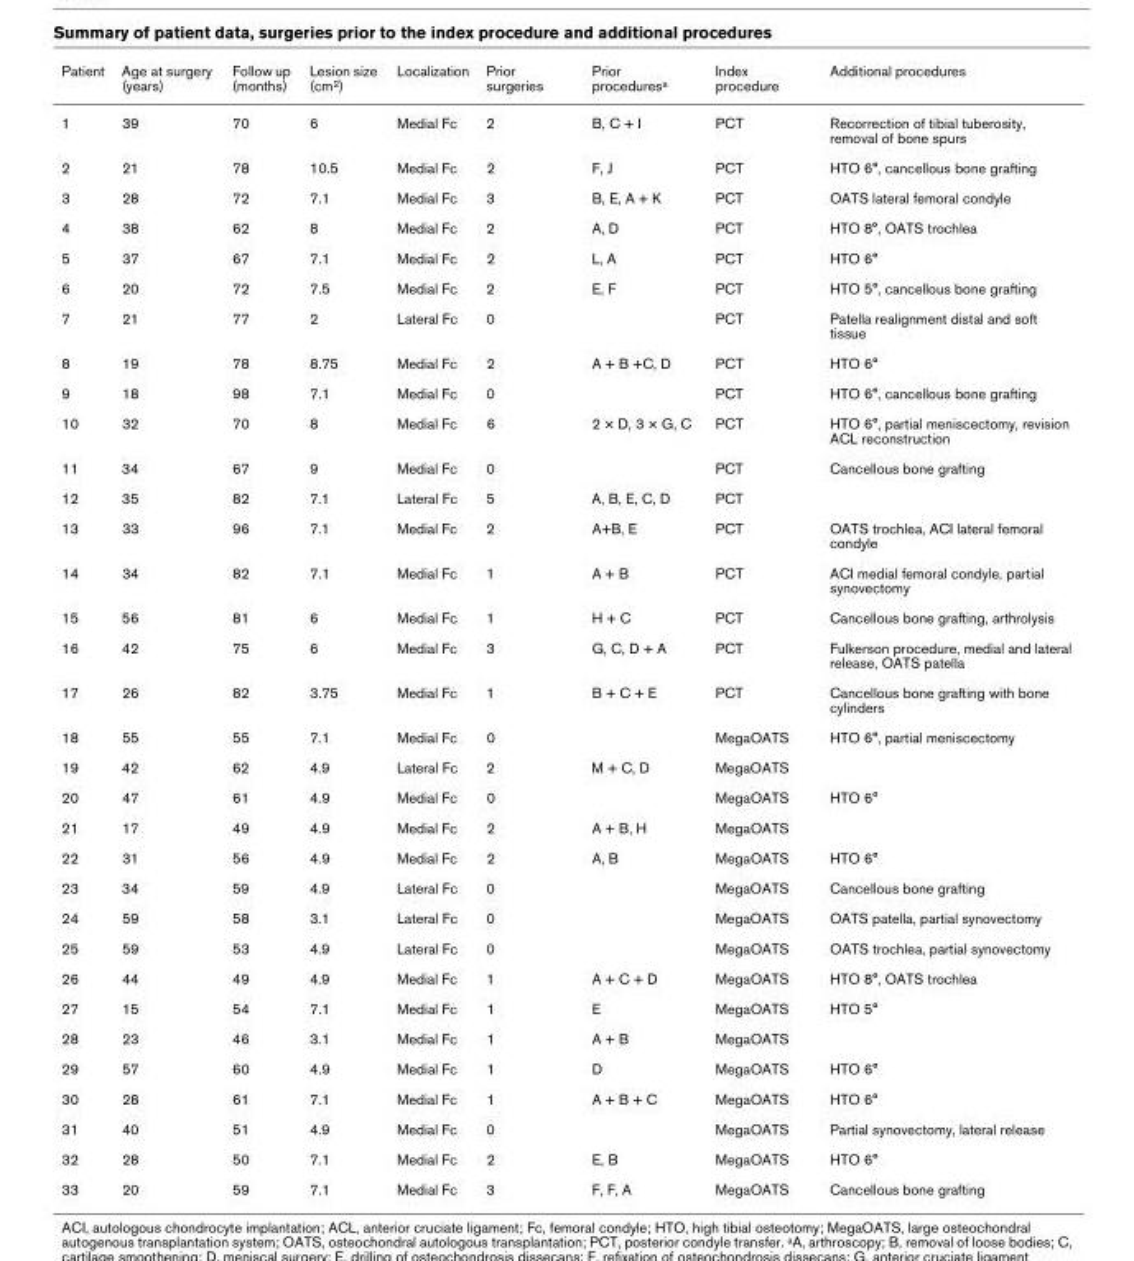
<table><thead><tr><td>Patient</td><td>Age at surgery (years)</td><td>Follow up (months)</td><td>Lesion size (cm<sup>2</sup>)</td><td>Localization</td><td>Prior surgeries</td><td>Prior procedures<sup>a</sup></td><td>Index procedure</td><td>Additional procedures</td></tr></thead><tbody><tr><td>1</td><td>39</td><td>70</td><td>6</td><td>Medial Fc</td><td>2</td><td>B, C + I</td><td>PCT</td><td>Recorrection of tibial tuberosity, removal of bone spurs</td></tr><tr><td>2</td><td>21</td><td>78</td><td>10.5</td><td>Medial Fc</td><td>2</td><td>F, J</td><td>PCT</td><td>HTO 6°, cancellous bone grafting</td></tr><tr><td>3</td><td>28</td><td>72</td><td>7.1</td><td>Medial Fc</td><td>3</td><td>B, E, A + K</td><td>PCT</td><td>OATS lateral femoral condyle</td></tr><tr><td>4</td><td>38</td><td>62</td><td>8</td><td>Medial Fc</td><td>2</td><td>A, D</td><td>PCT</td><td>HTO 8°, OATS trochlea</td></tr><tr><td>5</td><td>37</td><td>67</td><td>7.1</td><td>Medial Fc</td><td>2</td><td>L, A</td><td>PCT</td><td>HTO 6°</td></tr><tr><td>6</td><td>20</td><td>72</td><td>7.5</td><td>Medial Fc</td><td>2</td><td>E, F</td><td>PCT</td><td>HTO 5°, cancellous bone grafting</td></tr><tr><td>7</td><td>21</td><td>77</td><td>2</td><td>Lateral Fc</td><td>0</td><td></td><td>PCT</td><td>Patella realignment distal and soft tissue</td></tr><tr><td>8</td><td>19</td><td>78</td><td>8.75</td><td>Medial Fc</td><td>2</td><td>A + B +C, D</td><td>PCT</td><td>HTO 6°</td></tr><tr><td>9</td><td>18</td><td>98</td><td>7.1</td><td>Medial Fc</td><td>0</td><td></td><td>PCT</td><td>HTO 6°, cancellous bone grafting</td></tr><tr><td>10</td><td>32</td><td>70</td><td>8</td><td>Medial Fc</td><td>6</td><td>2 × D, 3 × G, C</td><td>PCT</td><td>HTO 6°, partial meniscectomy, revision ACL reconstruction</td></tr><tr><td>11</td><td>34</td><td>67</td><td>9</td><td>Medial Fc</td><td>0</td><td></td><td>PCT</td><td>Cancellous bone grafting</td></tr><tr><td>12</td><td>35</td><td>82</td><td>7.1</td><td>Lateral Fc</td><td>5</td><td>A, B, E, C, D</td><td>PCT</td><td></td></tr><tr><td>13</td><td>33</td><td>96</td><td>7.1</td><td>Medial Fc</td><td>2</td><td>A+B, E</td><td>PCT</td><td>OATS trochlea, ACI lateral femoral condyle</td></tr><tr><td>14</td><td>34</td><td>82</td><td>7.1</td><td>Medial Fc</td><td>1</td><td>A + B</td><td>PCT</td><td>ACI medial femoral condyle, partial synovectomy</td></tr><tr><td>15</td><td>56</td><td>81</td><td>6</td><td>Medial Fc</td><td>1</td><td>H + C</td><td>PCT</td><td>Cancellous bone grafting, arthrolysis</td></tr><tr><td>16</td><td>42</td><td>75</td><td>6</td><td>Medial Fc</td><td>3</td><td>G, C, D + A</td><td>PCT</td><td>Fulkerson procedure, medial and lateral release, OATS patella</td></tr><tr><td>17</td><td>26</td><td>82</td><td>3.75</td><td>Medial Fc</td><td>1</td><td>B + C + E</td><td>PCT</td><td>Cancellous bone grafting with bone cylinders</td></tr><tr><td>18</td><td>55</td><td>55</td><td>7.1</td><td>Medial Fc</td><td>0</td><td></td><td>MegaOATS</td><td>HTO 6°, partial meniscectomy</td></tr><tr><td>19</td><td>42</td><td>62</td><td>4.9</td><td>Lateral Fc</td><td>2</td><td>M + C, D</td><td>MegaOATS</td><td></td></tr><tr><td>20</td><td>47</td><td>61</td><td>4.9</td><td>Medial Fc</td><td>0</td><td></td><td>MegaOATS</td><td>HTO 6°</td></tr><tr><td>21</td><td>17</td><td>49</td><td>4.9</td><td>Medial Fc</td><td>2</td><td>A + B, H</td><td>MegaOATS</td><td></td></tr><tr><td>22</td><td>31</td><td>56</td><td>4.9</td><td>Medial Fc</td><td>2</td><td>A, B</td><td>MegaOATS</td><td>HTO 6°</td></tr><tr><td>23</td><td>34</td><td>59</td><td>4.9</td><td>Lateral Fc</td><td>0</td><td></td><td>MegaOATS</td><td>Cancellous bone grafting</td></tr><tr><td>24</td><td>59</td><td>58</td><td>3.1</td><td>Lateral Fc</td><td>0</td><td></td><td>MegaOATS</td><td>OATS patella, partial synovectomy</td></tr><tr><td>25</td><td>59</td><td>53</td><td>4.9</td><td>Lateral Fc</td><td>0</td><td></td><td>MegaOATS</td><td>OATS trochlea, partial synovectomy</td></tr><tr><td>26</td><td>44</td><td>49</td><td>4.9</td><td>Medial Fc</td><td>1</td><td>A + C + D</td><td>MegaOATS</td><td>HTO 8°, OATS trochlea</td></tr><tr><td>27</td><td>15</td><td>54</td><td>7.1</td><td>Medial Fc</td><td>1</td><td>E</td><td>MegaOATS</td><td>HTO 5°</td></tr><tr><td>28</td><td>23</td><td>46</td><td>3.1</td><td>Medial Fc</td><td>1</td><td>A + B</td><td>MegaOATS</td><td></td></tr><tr><td>29</td><td>57</td><td>60</td><td>4.9</td><td>Medial Fc</td><td>1</td><td>D</td><td>MegaOATS</td><td>HTO 6°</td></tr><tr><td>30</td><td>28</td><td>61</td><td>7.1</td><td>Medial Fc</td><td>1</td><td>A + B + C</td><td>MegaOATS</td><td>HTO 6°</td></tr><tr><td>31</td><td>40</td><td>51</td><td>4.9</td><td>Medial Fc</td><td>0</td><td></td><td>MegaOATS</td><td>Partial synovectomy, lateral release</td></tr><tr><td>32</td><td>28</td><td>50</td><td>7.1</td><td>Medial Fc</td><td>2</td><td>E, B</td><td>MegaOATS</td><td>HTO 6°</td></tr><tr><td>33</td><td>20</td><td>59</td><td>7.1</td><td>Medial Fc</td><td>3</td><td>F, F, A</td><td>MegaOATS</td><td>Cancellous bone grafting</td></tr></tbody></table>